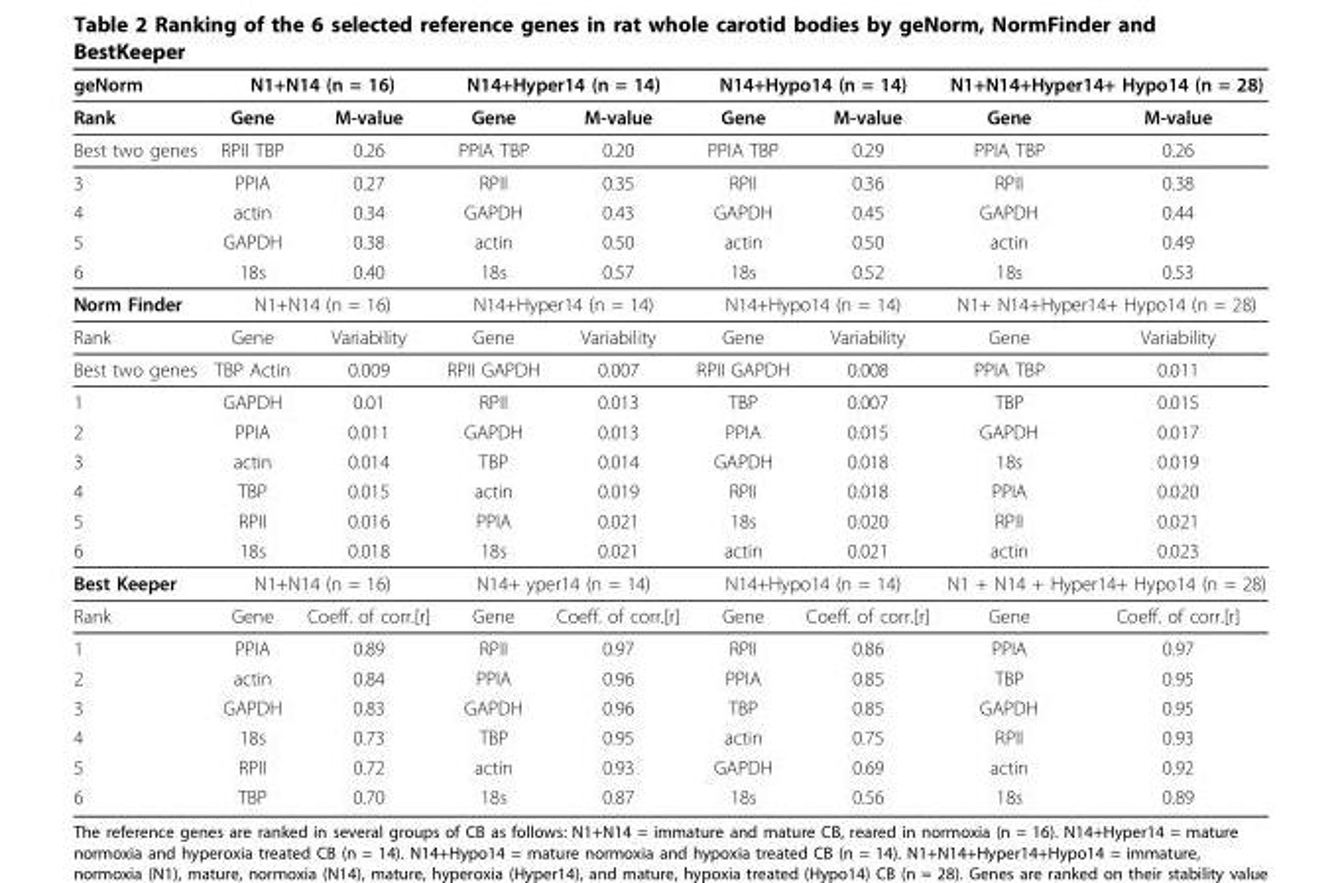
<table><thead><tr><td rowspan="2">geNorm Rank</td><td colspan="2">N1+N14 (n = 16)</td><td colspan="2">N14+Hyper14 (n = 14)</td><td colspan="2">N14+Hypo14 (n = 14)</td><td colspan="2">N1+N14+Hyper14+ Hypo14 (n = 28)</td></tr><tr><td>Gene</td><td>M-value</td><td>Gene</td><td>M-value</td><td>Gene</td><td>M-value</td><td>Gene</td><td>M-value</td></tr></thead><tbody><tr><td>Best two genes</td><td>RPII TBP</td><td>0.26</td><td>PPIA TBP</td><td>0.20</td><td>PPIA TBP</td><td>0.29</td><td>PPIA TBP</td><td>0.26</td></tr><tr><td>3</td><td>PPIA</td><td>0.27</td><td>RPII</td><td>0.35</td><td>RPII</td><td>0.36</td><td>RPII</td><td>0.38</td></tr><tr><td>4</td><td>actin</td><td>0.34</td><td>GAPDH</td><td>0.43</td><td>GAPDH</td><td>0.45</td><td>GAPDH</td><td>0.44</td></tr><tr><td>5</td><td>GAPDH</td><td>0.38</td><td>actin</td><td>0.50</td><td>actin</td><td>0.50</td><td>actin</td><td>0.49</td></tr><tr><td>6</td><td>18s</td><td>0.40</td><td>18s</td><td>0.57</td><td>18s</td><td>0.52</td><td>18s</td><td>0.53</td></tr><tr><td>Norm Finder</td><td colspan="2">N1+N14 (n = 16)</td><td colspan="2">N14+Hyper14 (n = 14)</td><td colspan="2">N14+Hypo14 (n = 14)</td><td colspan="2">N1+ N14+Hyper14+ Hypo14 (n = 28)</td></tr><tr><td>Rank</td><td>Gene</td><td>Variability</td><td>Gene</td><td>Variability</td><td>Gene</td><td>Variability</td><td>Gene</td><td>Variability</td></tr><tr><td>Best two genes</td><td>TBP Actin</td><td>0.009</td><td>RPII GAPDH</td><td>0.007</td><td>RPII GAPDH</td><td>0.008</td><td>PPIA TBP</td><td>0.011</td></tr><tr><td>1</td><td>GAPDH</td><td>0.01</td><td>RPII</td><td>0.013</td><td>TBP</td><td>0.007</td><td>TBP</td><td>0.015</td></tr><tr><td>2</td><td>PPIA</td><td>0.011</td><td>GAPDH</td><td>0.013</td><td>PPIA</td><td>0.015</td><td>GAPDH</td><td>0.017</td></tr><tr><td>3</td><td>actin</td><td>0.014</td><td>TBP</td><td>0.014</td><td>GAPDH</td><td>0.018</td><td>18s</td><td>0.019</td></tr><tr><td>4</td><td>TBP</td><td>0.015</td><td>actin</td><td>0.019</td><td>RPII</td><td>0.018</td><td>PPIA</td><td>0.020</td></tr><tr><td>5</td><td>RPII</td><td>0.016</td><td>PPIA</td><td>0.021</td><td>18s</td><td>0.020</td><td>RPII</td><td>0.021</td></tr><tr><td>6</td><td>18s</td><td>0.018</td><td>18s</td><td>0.021</td><td>actin</td><td>0.021</td><td>actin</td><td>0.023</td></tr><tr><td>Best Keeper</td><td colspan="2">N1+N14 (n = 16)</td><td colspan="2">N14+ yper14 (n = 14)</td><td colspan="2">N14+Hypo14 (n = 14)</td><td colspan="2">N1 + N14 + Hyper14+ Hypo14 (n = 28)</td></tr><tr><td>Rank</td><td>Gene</td><td>Coeff. of corr.[r]</td><td>Gene</td><td>Coeff. of corr.[r]</td><td>Gene</td><td>Coeff. of corr.[r]</td><td>Gene</td><td>Coeff. of corr.[r]</td></tr><tr><td>1</td><td>PPIA</td><td>0.89</td><td>RPII</td><td>0.97</td><td>RPII</td><td>0.86</td><td>PPIA</td><td>0.97</td></tr><tr><td>2</td><td>actin</td><td>0.84</td><td>PPIA</td><td>0.96</td><td>PPIA</td><td>0.85</td><td>TBP</td><td>0.95</td></tr><tr><td>3</td><td>GAPDH</td><td>0.83</td><td>GAPDH</td><td>0.96</td><td>TBP</td><td>0.85</td><td>GAPDH</td><td>0.95</td></tr><tr><td>4</td><td>18s</td><td>0.73</td><td>TBP</td><td>0.95</td><td>actin</td><td>0.75</td><td>RPII</td><td>0.93</td></tr><tr><td>5</td><td>RPII</td><td>0.72</td><td>actin</td><td>0.93</td><td>GAPDH</td><td>0.69</td><td>actin</td><td>0.92</td></tr><tr><td>6</td><td>TBP</td><td>0.70</td><td>18s</td><td>0.87</td><td>18s</td><td>0.56</td><td>18s</td><td>0.89</td></tr></tbody></table>